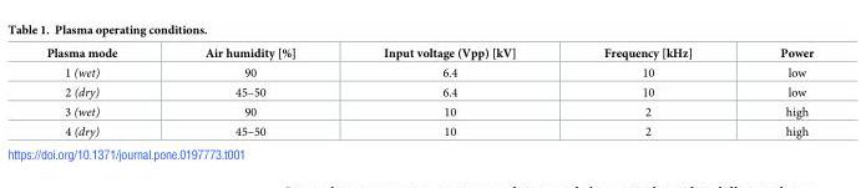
<table><thead><tr><td>Plasma mode</td><td>Air humidity [%]</td><td>Input voltage (Vpp) [kV]</td><td>Frequency [kHz]</td><td>Power</td></tr></thead><tbody><tr><td>1 (wet)</td><td>90</td><td>6.4</td><td>10</td><td>low</td></tr><tr><td>2 (dry)</td><td>45–50</td><td>6.4</td><td>10</td><td>low</td></tr><tr><td>3 (wet)</td><td>90</td><td>10</td><td>2</td><td>high</td></tr><tr><td>4 (dry)</td><td>45–50</td><td>10</td><td>2</td><td>high</td></tr></tbody></table>